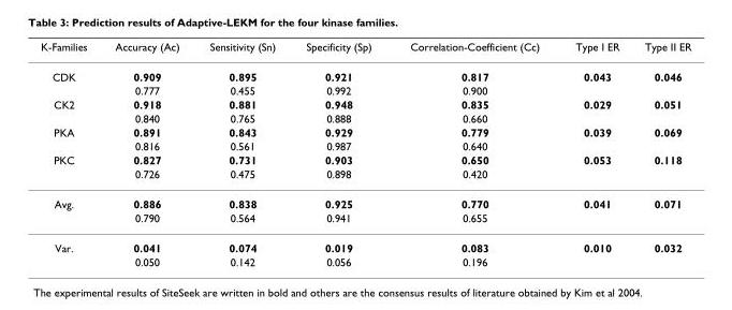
<table><thead><tr><td>K-Families</td><td>Accuracy (Ac)</td><td>Sensitivity (Sn)</td><td>Specificity (Sp)</td><td>Correlation-Coefficient (Cc)</td><td>Type I ER</td><td>Type II ER</td></tr></thead><tbody><tr><td rowspan="2">CDK</td><td>0.909</td><td>0.895</td><td>0.921</td><td>0.817</td><td>0.043</td><td>0.046</td></tr><tr><td>0.777</td><td>0.455</td><td>0.992</td><td>0.900</td><td></td><td></td></tr><tr><td rowspan="2">CK2</td><td>0.918</td><td>0.881</td><td>0.948</td><td>0.835</td><td>0.029</td><td>0.051</td></tr><tr><td>0.840</td><td>0.765</td><td>0.888</td><td>0.660</td><td></td><td></td></tr><tr><td rowspan="2">PKA</td><td>0.891</td><td>0.843</td><td>0.929</td><td>0.779</td><td>0.039</td><td>0.069</td></tr><tr><td>0.816</td><td>0.561</td><td>0.987</td><td>0.640</td><td></td><td></td></tr><tr><td rowspan="2">PKC</td><td>0.827</td><td>0.731</td><td>0.903</td><td>0.650</td><td>0.053</td><td>0.118</td></tr><tr><td>0.726</td><td>0.475</td><td>0.898</td><td>0.420</td><td></td><td></td></tr><tr><td rowspan="2">Avg.</td><td>0.886</td><td>0.838</td><td>0.925</td><td>0.770</td><td>0.041</td><td>0.071</td></tr><tr><td>0.790</td><td>0.564</td><td>0.941</td><td>0.655</td><td></td><td></td></tr><tr><td rowspan="2">Var.</td><td>0.041</td><td>0.074</td><td>0.019</td><td>0.083</td><td>0.010</td><td>0.032</td></tr><tr><td>0.050</td><td>0.142</td><td>0.056</td><td>0.196</td><td></td><td></td></tr></tbody></table>